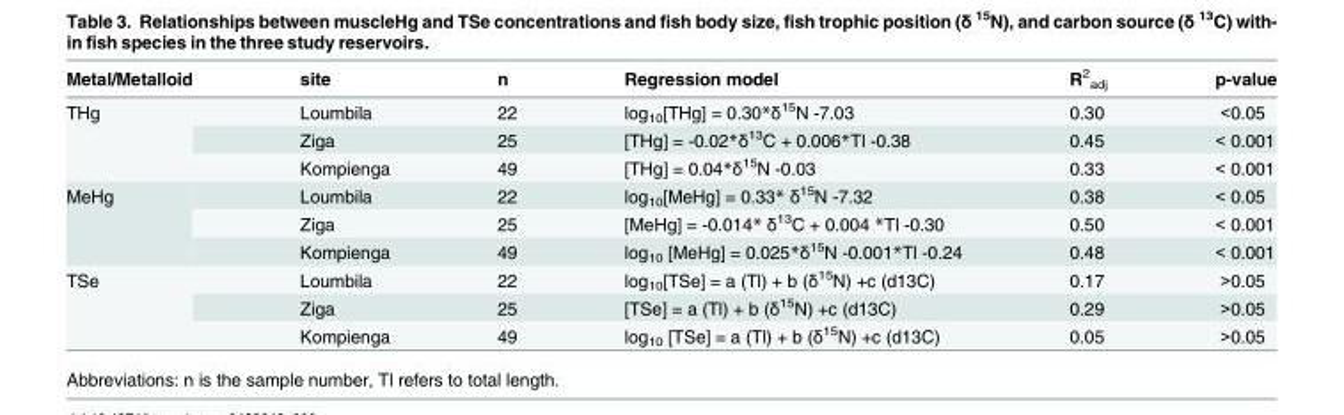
<table><thead><tr><td>Metal/Metalloid</td><td>site</td><td>n</td><td>Regression model</td><td>R<sup>2</sup> <sub>adj</sub></td><td>p-value</td></tr></thead><tbody><tr><td rowspan="3">THg</td><td>Loumbila</td><td>22</td><td>log<sub>10</sub>[THg] = 0.30*δ<sup>15</sup>N -7.03</td><td>0.30</td><td>&lt;0.05</td></tr><tr><td>Ziga</td><td>25</td><td>[THg] = -0.02*δ<sup>13</sup>C + 0.006*Tl -0.38</td><td>0.45</td><td>&lt; 0.001</td></tr><tr><td>Kompienga</td><td>49</td><td>[THg] = 0.04*δ<sup>15</sup>N -0.03</td><td>0.33</td><td>&lt; 0.001</td></tr><tr><td rowspan="3">MeHg</td><td>Loumbila</td><td>22</td><td>log<sub>10</sub>[MeHg] = 0.33* δ<sup>15</sup>N -7.32</td><td>0.38</td><td>&lt; 0.05</td></tr><tr><td>Ziga</td><td>25</td><td>[MeHg] = -0.014* δ<sup>13</sup>C + 0.004 *Tl -0.30</td><td>0.50</td><td>&lt; 0.001</td></tr><tr><td>Kompienga</td><td>49</td><td>log<sub>10</sub> [MeHg] = 0.025*δ<sup>15</sup>N -0.001*Tl -0.24</td><td>0.48</td><td>&lt; 0.001</td></tr><tr><td rowspan="3">TSe</td><td>Loumbila</td><td>22</td><td>log<sub>10</sub>[TSe] = a (Tl) + b (δ<sup>15</sup>N) +c (d13C)</td><td>0.17</td><td>&gt;0.05</td></tr><tr><td>Ziga</td><td>25</td><td>[TSe] = a (Tl) + b (δ<sup>15</sup>N) +c (d13C)</td><td>0.29</td><td>&gt;0.05</td></tr><tr><td>Kompienga</td><td>49</td><td>log<sub>10</sub> [TSe] = a (Tl) + b (δ<sup>15</sup>N) +c (d13C)</td><td>0.05</td><td>&gt;0.05</td></tr></tbody></table>